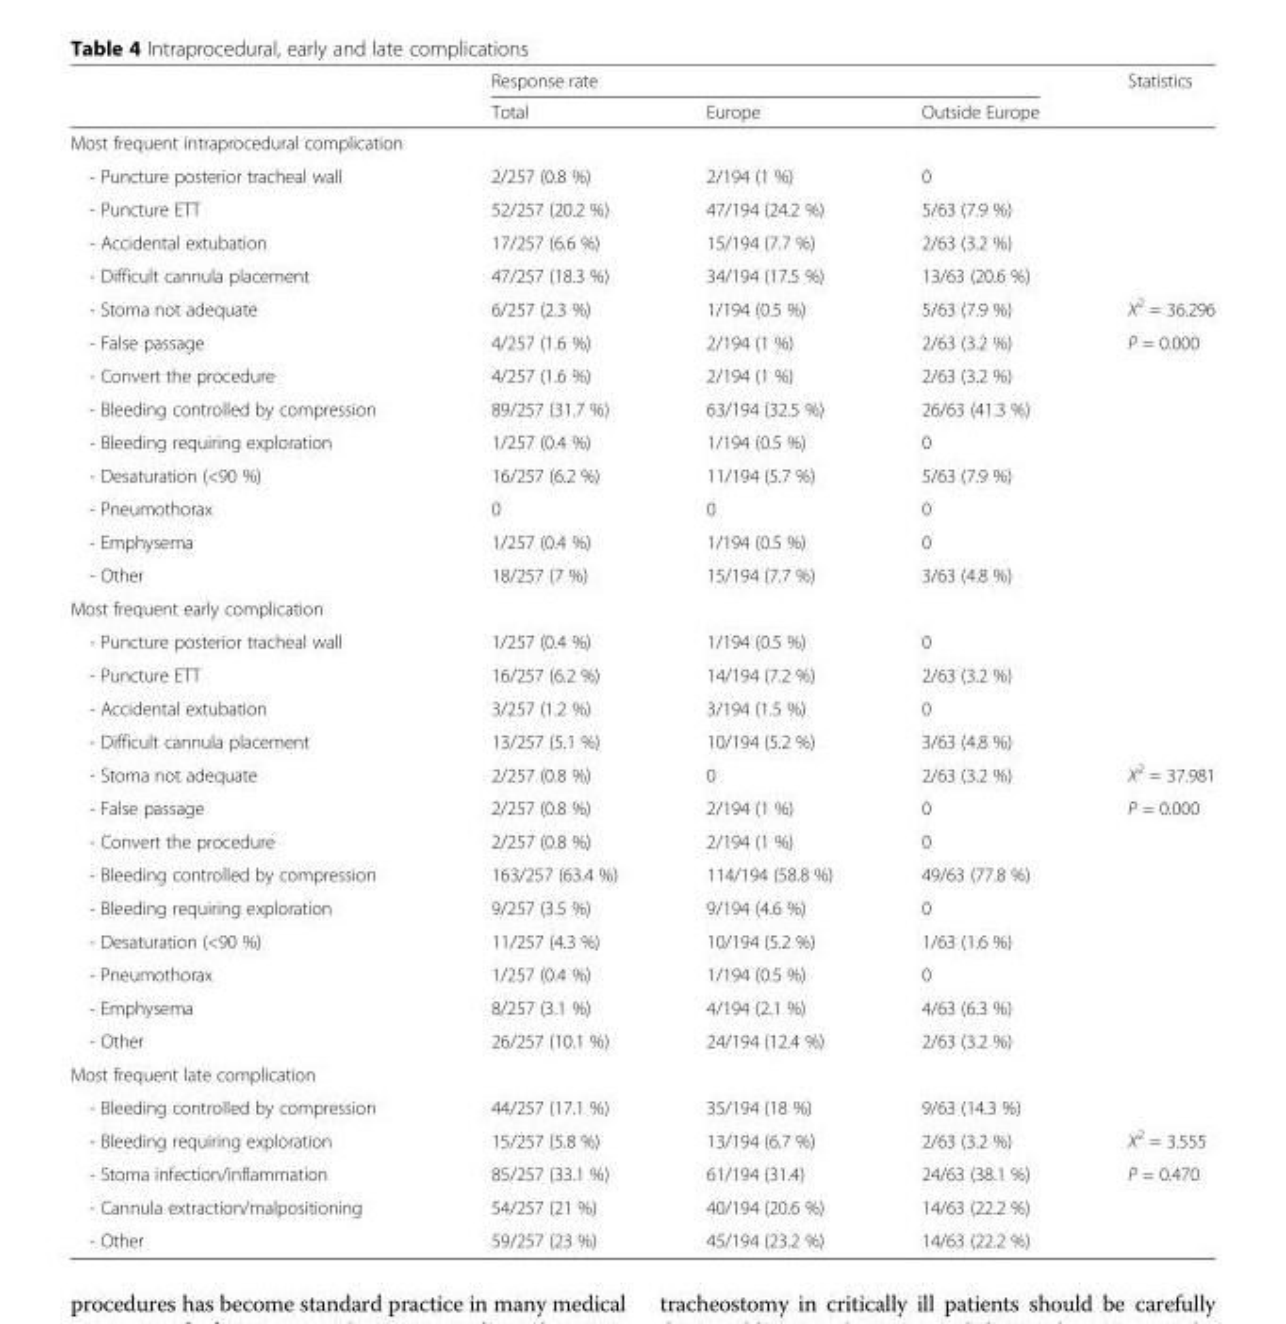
<table><thead><tr><td rowspan="2"></td><td colspan="3">Response rate</td><td rowspan="2">Statistics</td></tr><tr><td>Total</td><td>Europe</td><td>Outside Europe</td></tr></thead><tbody><tr><td colspan="5">Most frequent intraprocedural complication</td></tr><tr><td>- Puncture posterior tracheal wall</td><td>2/257 (0.8 %)</td><td>2/194 (1 %)</td><td>0</td><td></td></tr><tr><td>- Puncture ETT</td><td>52/257 (20.2 %)</td><td>47/194 (24.2 %)</td><td>5/63 (7.9 %)</td><td></td></tr><tr><td>- Accidental extubation</td><td>17/257 (6.6 %)</td><td>15/194 (7.7 %)</td><td>2/63 (3.2 %)</td><td></td></tr><tr><td>- Difficult cannula placement</td><td>47/257 (18.3 %)</td><td>34/194 (17.5 %)</td><td>13/63 (20.6 %)</td><td></td></tr><tr><td>- Stoma not adequate</td><td>6/257 (2.3 %)</td><td>1/194 (0.5 %)</td><td>5/63 (7.9 %)</td><td>X<sup>2</sup> = 36.296</td></tr><tr><td>- False passage</td><td>4/257 (1.6 %)</td><td>2/194 (1 %)</td><td>2/63 (3.2 %)</td><td>P = 0.000</td></tr><tr><td>- Convert the procedure</td><td>4/257 (1.6 %)</td><td>2/194 (1 %)</td><td>2/63 (3.2 %)</td><td></td></tr><tr><td>- Bleeding controlled by compression</td><td>89/257 (31.7 %)</td><td>63/194 (32.5 %)</td><td>26/63 (41.3 %)</td><td></td></tr><tr><td>- Bleeding requiring exploration</td><td>1/257 (0.4 %)</td><td>1/194 (0.5 %)</td><td>0</td><td></td></tr><tr><td>- Desaturation (&lt;90 %)</td><td>16/257 (6.2 %)</td><td>11/194 (5.7 %)</td><td>5/63 (7.9 %)</td><td></td></tr><tr><td>- Pneumothorax</td><td>0</td><td>0</td><td>0</td><td></td></tr><tr><td>- Emphysema</td><td>1/257 (0.4 %)</td><td>1/194 (0.5 %)</td><td>0</td><td></td></tr><tr><td>- Other</td><td>18/257 (7 %)</td><td>15/194 (7.7 %)</td><td>3/63 (4.8 %)</td><td></td></tr><tr><td colspan="5">Most frequent early complication</td></tr><tr><td>- Puncture posterior tracheal wall</td><td>1/257 (0.4 %)</td><td>1/194 (0.5 %)</td><td>0</td><td></td></tr><tr><td>- Puncture ETT</td><td>16/257 (6.2 %)</td><td>14/194 (7.2 %)</td><td>2/63 (3.2 %)</td><td></td></tr><tr><td>- Accidental extubation</td><td>3/257 (1.2 %)</td><td>3/194 (1.5 %)</td><td>0</td><td></td></tr><tr><td>- Difficult cannula placement</td><td>13/257 (5.1 %)</td><td>10/194 (5.2 %)</td><td>3/63 (4.8 %)</td><td></td></tr><tr><td>- Stoma not adequate</td><td>2/257 (0.8 %)</td><td>0</td><td>2/63 (3.2 %)</td><td>X<sup>2</sup> = 37.981</td></tr><tr><td>- False passage</td><td>2/257 (0.8 %)</td><td>2/194 (1 %)</td><td>0</td><td>P = 0.000</td></tr><tr><td>- Convert the procedure</td><td>2/257 (0.8 %)</td><td>2/194 (1 %)</td><td>0</td><td></td></tr><tr><td>- Bleeding controlled by compression</td><td>163/257 (63.4 %)</td><td>114/194 (58.8 %)</td><td>49/63 (77.8 %)</td><td></td></tr><tr><td>- Bleeding requiring exploration</td><td>9/257 (3.5 %)</td><td>9/194 (4.6 %)</td><td>0</td><td></td></tr><tr><td>- Desaturation (&lt;90 %)</td><td>11/257 (4.3 %)</td><td>10/194 (5.2 %)</td><td>1/63 (1.6 %)</td><td></td></tr><tr><td>- Pneumothorax</td><td>1/257 (0.4 %)</td><td>1/194 (0.5 %)</td><td>0</td><td></td></tr><tr><td>- Emphysema</td><td>8/257 (3.1 %)</td><td>4/194 (2.1 %)</td><td>4/63 (6.3 %)</td><td></td></tr><tr><td>- Other</td><td>26/257 (10.1 %)</td><td>24/194 (12.4 %)</td><td>2/63 (3.2 %)</td><td></td></tr><tr><td colspan="5">Most frequent late complication</td></tr><tr><td>- Bleeding controlled by compression</td><td>44/257 (17.1 %)</td><td>35/194 (18 %)</td><td>9/63 (14.3 %)</td><td></td></tr><tr><td>- Bleeding requiring exploration</td><td>15/257 (5.8 %)</td><td>13/194 (6.7 %)</td><td>2/63 (3.2 %)</td><td>X<sup>2</sup> = 3.555</td></tr><tr><td>- Stoma infection/inflammation</td><td>85/257 (33.1 %)</td><td>61/194 (31.4)</td><td>24/63 (38.1 %)</td><td>P = 0.470</td></tr><tr><td>- Cannula extraction/malpositioning</td><td>54/257 (21 %)</td><td>40/194 (20.6 %)</td><td>14/63 (22.2 %)</td><td></td></tr><tr><td>- Other</td><td>59/257 (23 %)</td><td>45/194 (23.2 %)</td><td>14/63 (22.2 %)</td><td></td></tr></tbody></table>